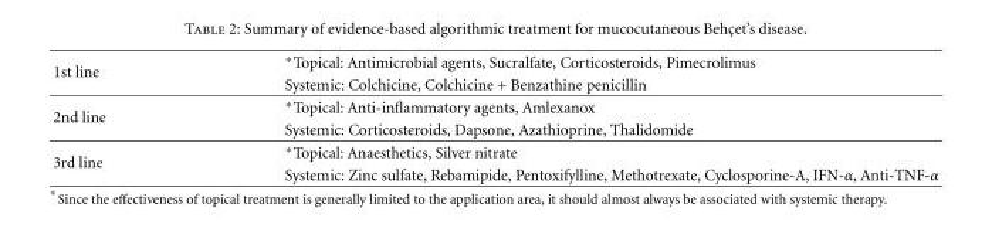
<table><tbody><tr><td rowspan="2">1st line</td><td>∗Topical: Antimicrobial agents, Sucralfate, Corticosteroids, Pimecrolimus</td></tr><tr><td>Systemic: Colchicine, Colchicine + Benzathine penicillin</td></tr><tr><td rowspan="2">2nd line</td><td>∗Topical: Anti-inflammatory agents, Amlexanox</td></tr><tr><td>Systemic: Corticosteroids, Dapsone, Azathioprine, Thalidomide</td></tr><tr><td rowspan="2">3rd line</td><td>∗Topical: Anaesthetics, Silver nitrate</td></tr><tr><td>Systemic: Zinc sulfate, Rebamipide, Pentoxifylline, Methotrexate, Cyclosporine-A, IFN-α, Anti-TNF-α</td></tr></tbody></table>